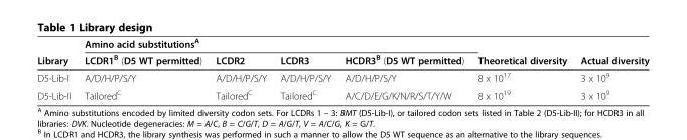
<table><thead><tr><td rowspan="2">Library</td><td colspan="4">Amino acid substitutions<sup>A</sup></td><td rowspan="2">Theoretical diversity</td><td rowspan="2">Actual diversity</td></tr><tr><td>LCDR1<sup>B</sup> (D5 WT permitted)</td><td>LCDR2</td><td>LCDR3</td><td>HCDR3<sup>B</sup> (D5 WT permitted)</td></tr></thead><tbody><tr><td>D5-Lib-I</td><td>A/D/H/P/S/Y</td><td>A/D/H/P/S/Y</td><td>A/D/H/P/S/Y</td><td>A/D/H/P/S/Y</td><td>8 x 10<sup>17</sup></td><td>3 x 10<sup>9</sup></td></tr><tr><td>D5-Lib-II</td><td>Tailored<sup>C</sup></td><td>Tailored<sup>C</sup></td><td>Tailored<sup>C</sup></td><td>A/C/D/E/G/K/N/R/S/T/Y/W</td><td>8 x 10<sup>19</sup></td><td>3 x 10<sup>9</sup></td></tr></tbody></table>